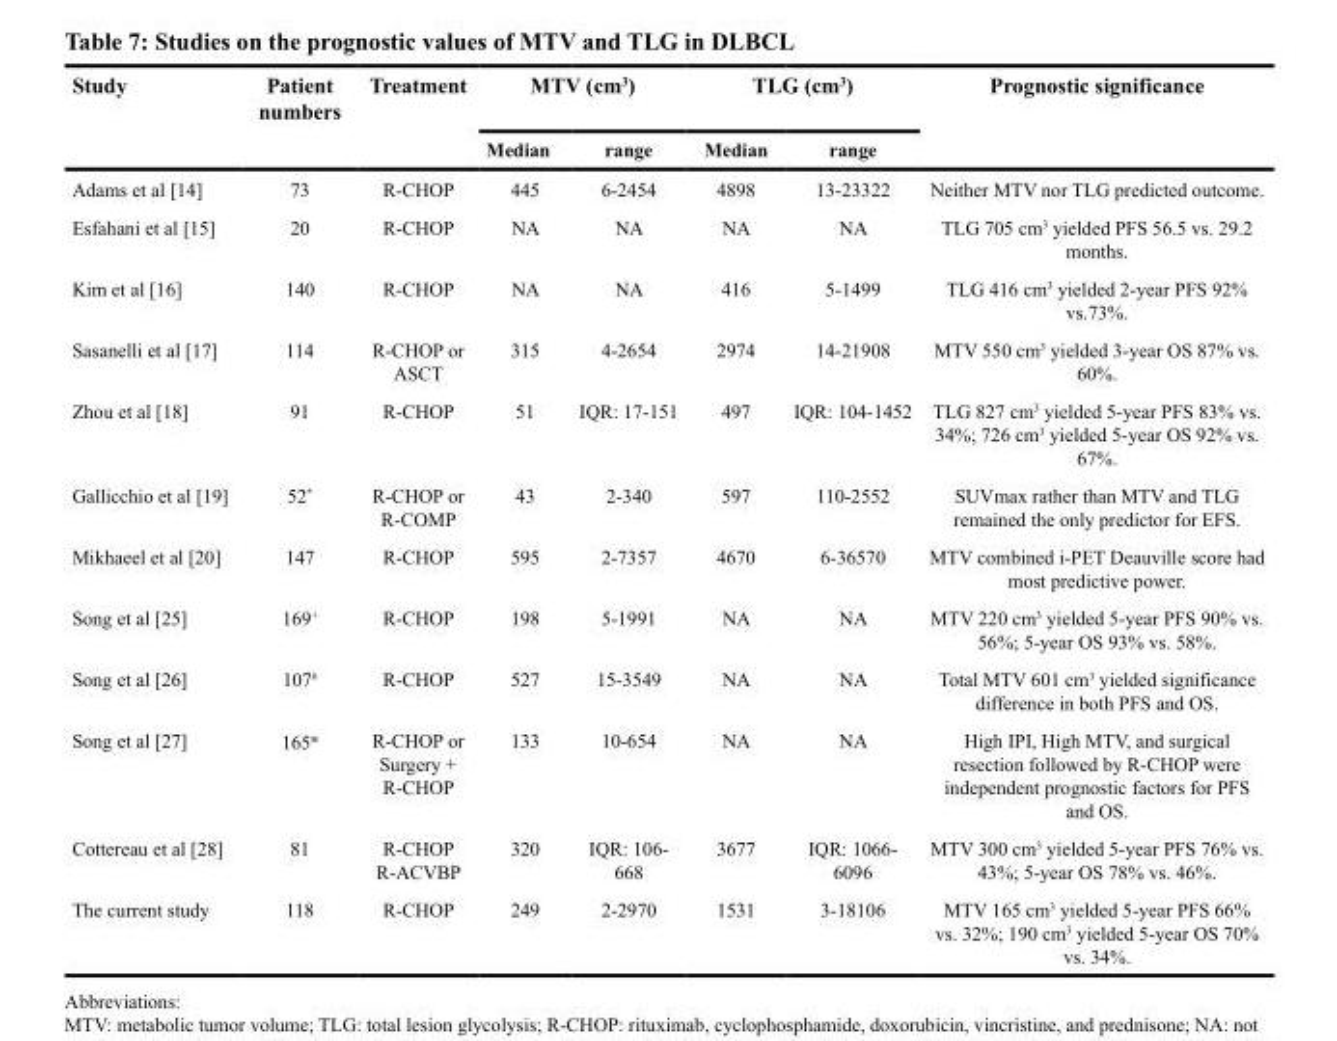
<table><thead><tr><td rowspan="2">Study</td><td rowspan="2">Patient numbers</td><td rowspan="2">Treatment</td><td colspan="2">MTV (cm<sup>3</sup>)</td><td colspan="2">TLG (cm<sup>3</sup>)</td><td rowspan="2">Prognostic significance</td></tr><tr><td>Median</td><td>range</td><td>Median</td><td>range</td></tr></thead><tbody><tr><td>Adams et al [14]</td><td>73</td><td>R-CHOP</td><td>445</td><td>6-2454</td><td>4898</td><td>13-23322</td><td>Neither MTV nor TLG predicted outcome.</td></tr><tr><td>Esfahani et al [15]</td><td>20</td><td>R-CHOP</td><td>NA</td><td>NA</td><td>NA</td><td>NA</td><td>TLG 705 cm<sup>3</sup> yielded PFS 56.5 vs. 29.2 months.</td></tr><tr><td>Kim et al [16]</td><td>140</td><td>R-CHOP</td><td>NA</td><td>NA</td><td>416</td><td>5-1499</td><td>TLG 416 cm<sup>3</sup> yielded 2-year PFS 92% vs.73%.</td></tr><tr><td>Sasanelli et al [17]</td><td>114</td><td>R-CHOP or ASCT</td><td>315</td><td>4-2654</td><td>2974</td><td>14-21908</td><td>MTV 550 cm<sup>3</sup> yielded 3-year OS 87% vs. 60%.</td></tr><tr><td>Zhou et al [18]</td><td>91</td><td>R-CHOP</td><td>51</td><td>IQR: 17-151</td><td>497</td><td>IQR: 104-1452</td><td>TLG 827 cm<sup>3</sup> yielded 5-year PFS 83% vs. 34%; 726 cm<sup>3</sup> yielded 5-year OS 92% vs. 67%.</td></tr><tr><td>Gallicchio et al [19]</td><td>52*</td><td>R-CHOP or R-COMP</td><td>43</td><td>2-340</td><td>597</td><td>110-2552</td><td>SUVmax rather than MTV and TLG remained the only predictor for EFS.</td></tr><tr><td>Mikhaeel et al [20]</td><td>147</td><td>R-CHOP</td><td>595</td><td>2-7357</td><td>4670</td><td>6-36570</td><td>MTV combined i-PET Deauville score had most predictive power.</td></tr><tr><td>Song et al [25]</td><td>169<sup>+</sup></td><td>R-CHOP</td><td>198</td><td>5-1991</td><td>NA</td><td>NA</td><td>MTV 220 cm<sup>3</sup> yielded 5-year PFS 90% vs. 56%; 5-year OS 93% vs. 58%.</td></tr><tr><td>Song et al [26]</td><td>107<sup>#</sup></td><td>R-CHOP</td><td>527</td><td>15-3549</td><td>NA</td><td>NA</td><td>Total MTV 601 cm<sup>3</sup> yielded significance difference in both PFS and OS.</td></tr><tr><td>Song et al [27]</td><td>165<sup>※</sup></td><td>R-CHOP or Surgery + R-CHOP</td><td>133</td><td>10-654</td><td>NA</td><td>NA</td><td>High IPI, High MTV, and surgical resection followed by R-CHOP were independent prognostic factors for PFS and OS.</td></tr><tr><td>Cottereau et al [28]</td><td>81</td><td>R-CHOP R-ACVBP</td><td>320</td><td>IQR: 106- 668</td><td>3677</td><td>IQR: 1066- 6096</td><td>MTV 300 cm<sup>3</sup> yielded 5-year PFS 76% vs. 43%; 5-year OS 78% vs. 46%.</td></tr><tr><td>The current study</td><td>118</td><td>R-CHOP</td><td>249</td><td>2-2970</td><td>1531</td><td>3-18106</td><td>MTV 165 cm<sup>3</sup> yielded 5-year PFS 66% vs. 32%; 190 cm<sup>3</sup> yielded 5-year OS 70% vs. 34%.</td></tr></tbody></table>